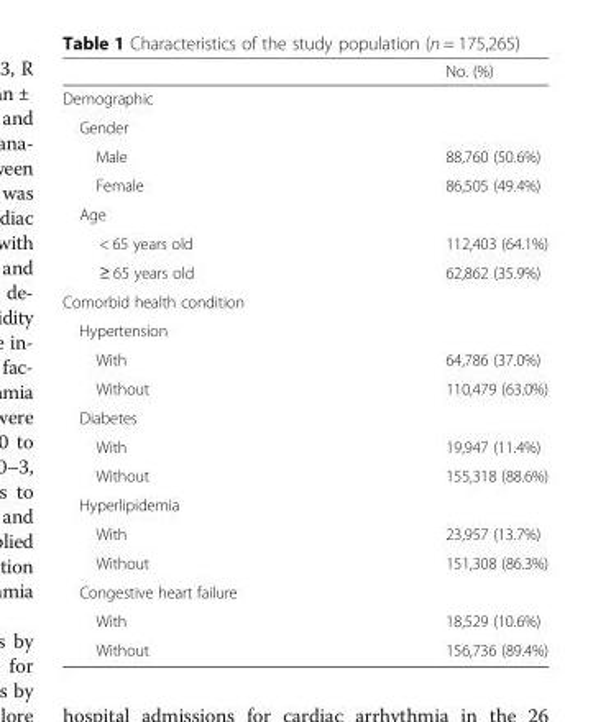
<table><thead><tr><td></td><td>No. (%)</td></tr></thead><tbody><tr><td colspan="2">Demographic</td></tr><tr><td colspan="2">Gender</td></tr><tr><td>Male</td><td>88,760 (50.6%)</td></tr><tr><td>Female</td><td>86,505 (49.4%)</td></tr><tr><td colspan="2">Age</td></tr><tr><td>&lt; 65 years old</td><td>112,403 (64.1%)</td></tr><tr><td>≥ 65 years old</td><td>62,862 (35.9%)</td></tr><tr><td colspan="2">Comorbid health condition</td></tr><tr><td colspan="2">Hypertension</td></tr><tr><td>With</td><td>64,786 (37.0%)</td></tr><tr><td>Without</td><td>110,479 (63.0%)</td></tr><tr><td colspan="2">Diabetes</td></tr><tr><td>With</td><td>19,947 (11.4%)</td></tr><tr><td>Without</td><td>155,318 (88.6%)</td></tr><tr><td colspan="2">Hyperlipidemia</td></tr><tr><td>With</td><td>23,957 (13.7%)</td></tr><tr><td>Without</td><td>151,308 (86.3%)</td></tr><tr><td colspan="2">Congestive heart failure</td></tr><tr><td>With</td><td>18,529 (10.6%)</td></tr><tr><td>Without</td><td>156,736 (89.4%)</td></tr></tbody></table>